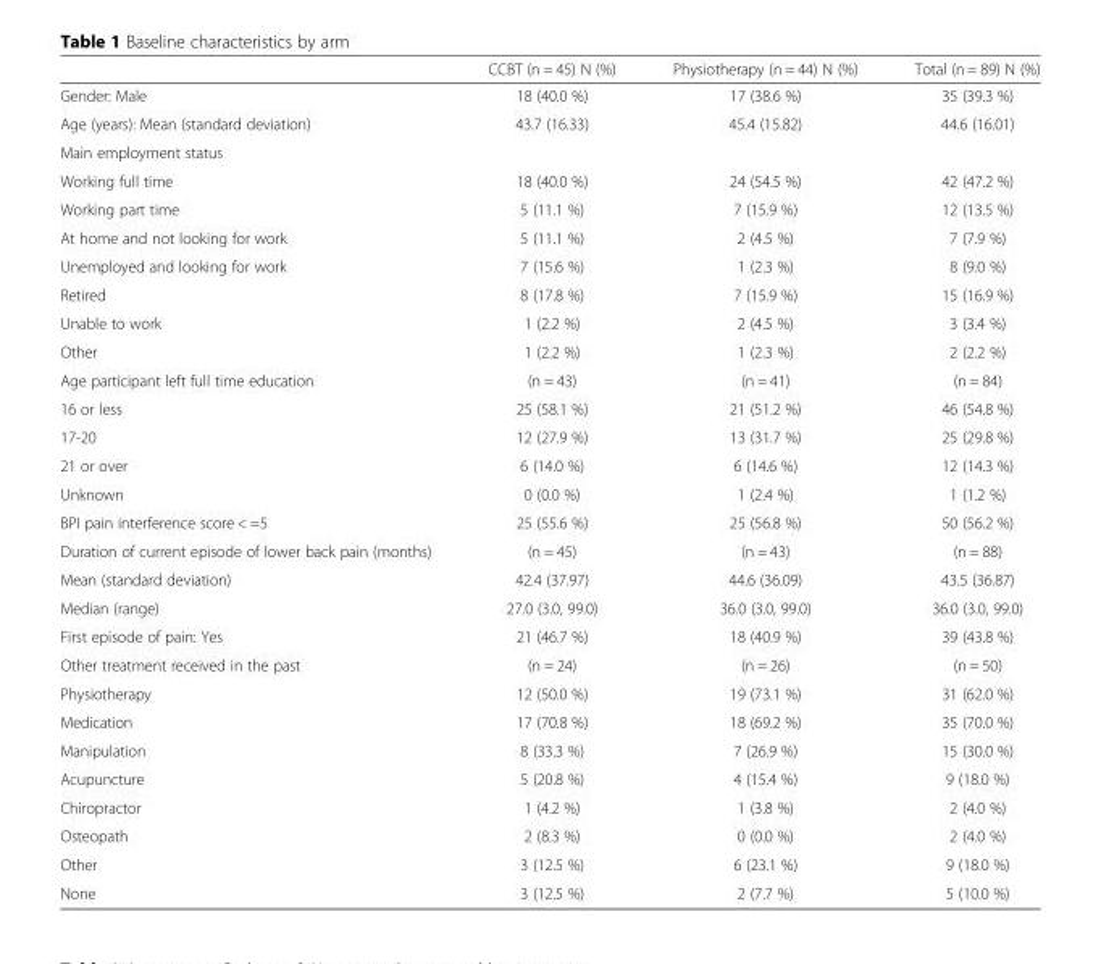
<table><thead><tr><td></td><td>CCBT (n = 45) N (%)</td><td>Physiotherapy (n = 44) N (%)</td><td>Total (n = 89) N (%)</td></tr></thead><tbody><tr><td>Gender: Male</td><td>18 (40.0 %)</td><td>17 (38.6 %)</td><td>35 (39.3 %)</td></tr><tr><td>Age (years): Mean (standard deviation)</td><td>43.7 (16.33)</td><td>45.4 (15.82)</td><td>44.6 (16.01)</td></tr><tr><td colspan="4">Main employment status</td></tr><tr><td>Working full time</td><td>18 (40.0 %)</td><td>24 (54.5 %)</td><td>42 (47.2 %)</td></tr><tr><td>Working part time</td><td>5 (11.1 %)</td><td>7 (15.9 %)</td><td>12 (13.5 %)</td></tr><tr><td>At home and not looking for work</td><td>5 (11.1 %)</td><td>2 (4.5 %)</td><td>7 (7.9 %)</td></tr><tr><td>Unemployed and looking for work</td><td>7 (15.6 %)</td><td>1 (2.3 %)</td><td>8 (9.0 %)</td></tr><tr><td>Retired</td><td>8 (17.8 %)</td><td>7 (15.9 %)</td><td>15 (16.9 %)</td></tr><tr><td>Unable to work</td><td>1 (2.2 %)</td><td>2 (4.5 %)</td><td>3 (3.4 %)</td></tr><tr><td>Other</td><td>1 (2.2 %)</td><td>1 (2.3 %)</td><td>2 (2.2 %)</td></tr><tr><td>Age participant left full time education</td><td>(n = 43)</td><td>(n = 41)</td><td>(n = 84)</td></tr><tr><td>16 or less</td><td>25 (58.1 %)</td><td>21 (51.2 %)</td><td>46 (54.8 %)</td></tr><tr><td>17-20</td><td>12 (27.9 %)</td><td>13 (31.7 %)</td><td>25 (29.8 %)</td></tr><tr><td>21 or over</td><td>6 (14.0 %)</td><td>6 (14.6 %)</td><td>12 (14.3 %)</td></tr><tr><td>Unknown</td><td>0 (0.0 %)</td><td>1 (2.4 %)</td><td>1 (1.2 %)</td></tr><tr><td>BPI pain interference score &lt; =5</td><td>25 (55.6 %)</td><td>25 (56.8 %)</td><td>50 (56.2 %)</td></tr><tr><td>Duration of current episode of lower back pain (months)</td><td>(n = 45)</td><td>(n = 43)</td><td>(n = 88)</td></tr><tr><td>Mean (standard deviation)</td><td>42.4 (37.97)</td><td>44.6 (36.09)</td><td>43.5 (36.87)</td></tr><tr><td>Median (range)</td><td>27.0 (3.0, 99.0)</td><td>36.0 (3.0, 99.0)</td><td>36.0 (3.0, 99.0)</td></tr><tr><td>First episode of pain: Yes</td><td>21 (46.7 %)</td><td>18 (40.9 %)</td><td>39 (43.8 %)</td></tr><tr><td>Other treatment received in the past</td><td>(n = 24)</td><td>(n = 26)</td><td>(n = 50)</td></tr><tr><td>Physiotherapy</td><td>12 (50.0 %)</td><td>19 (73.1 %)</td><td>31 (62.0 %)</td></tr><tr><td>Medication</td><td>17 (70.8 %)</td><td>18 (69.2 %)</td><td>35 (70.0 %)</td></tr><tr><td>Manipulation</td><td>8 (33.3 %)</td><td>7 (26.9 %)</td><td>15 (30.0 %)</td></tr><tr><td>Acupuncture</td><td>5 (20.8 %)</td><td>4 (15.4 %)</td><td>9 (18.0 %)</td></tr><tr><td>Chiropractor</td><td>1 (4.2 %)</td><td>1 (3.8 %)</td><td>2 (4.0 %)</td></tr><tr><td>Osteopath</td><td>2 (8.3 %)</td><td>0 (0.0 %)</td><td>2 (4.0 %)</td></tr><tr><td>Other</td><td>3 (12.5 %)</td><td>6 (23.1 %)</td><td>9 (18.0 %)</td></tr><tr><td>None</td><td>3 (12.5 %)</td><td>2 (7.7 %)</td><td>5 (10.0 %)</td></tr></tbody></table>